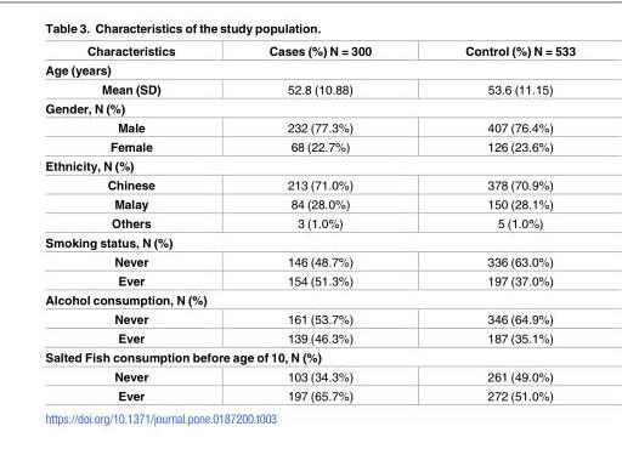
<table><thead><tr><td>Characteristics</td><td>Cases (%) N = 300</td><td>Control (%) N = 533</td></tr></thead><tbody><tr><td colspan="3">Age (years)</td></tr><tr><td>Mean (SD)</td><td>52.8 (10.88)</td><td>53.6 (11.15)</td></tr><tr><td colspan="3">Gender, N (%)</td></tr><tr><td>Male</td><td>232 (77.3%)</td><td>407 (76.4%)</td></tr><tr><td>Female</td><td>68 (22.7%)</td><td>126 (23.6%)</td></tr><tr><td colspan="3">Ethnicity, N (%)</td></tr><tr><td>Chinese</td><td>213 (71.0%)</td><td>378 (70.9%)</td></tr><tr><td>Malay</td><td>84 (28.0%)</td><td>150 (28.1%)</td></tr><tr><td>Others</td><td>3 (1.0%)</td><td>5 (1.0%)</td></tr><tr><td colspan="3">Smoking status, N (%)</td></tr><tr><td>Never</td><td>146 (48.7%)</td><td>336 (63.0%)</td></tr><tr><td>Ever</td><td>154 (51.3%)</td><td>197 (37.0%)</td></tr><tr><td colspan="3">Alcohol consumption, N (%)</td></tr><tr><td>Never</td><td>161 (53.7%)</td><td>346 (64.9%)</td></tr><tr><td>Ever</td><td>139 (46.3%)</td><td>187 (35.1%)</td></tr><tr><td colspan="3">Salted Fish consumption before age of 10, N (%)</td></tr><tr><td>Never</td><td>103 (34.3%)</td><td>261 (49.0%)</td></tr><tr><td>Ever</td><td>197 (65.7%)</td><td>272 (51.0%)</td></tr></tbody></table>